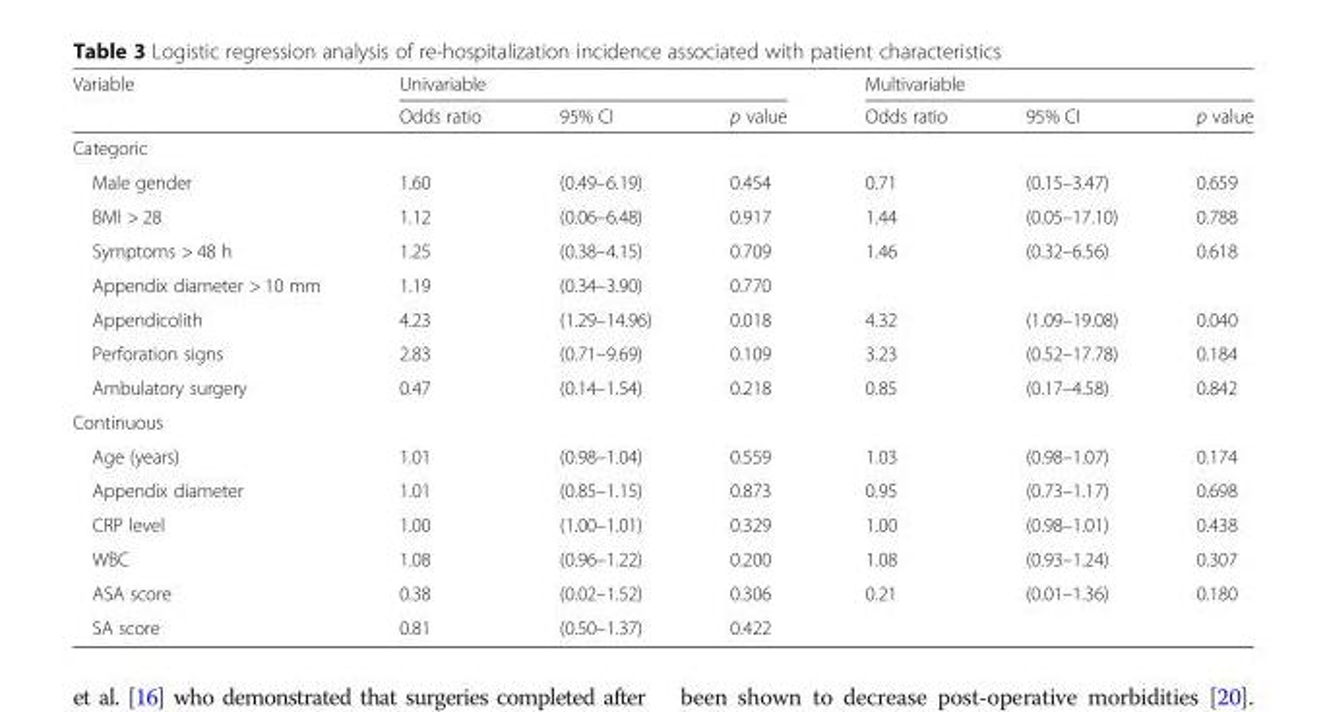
<table><thead><tr><td rowspan="2">Variable</td><td colspan="3">Univariable</td><td colspan="3">Multivariable</td></tr><tr><td>Odds ratio</td><td>95% CI</td><td>p value</td><td>Odds ratio</td><td>95% CI</td><td>p value</td></tr></thead><tbody><tr><td colspan="7">Categoric</td></tr><tr><td>Male gender</td><td>1.60</td><td>(0.49–6.19)</td><td>0.454</td><td>0.71</td><td>(0.15–3.47)</td><td>0.659</td></tr><tr><td>BMI &gt; 28</td><td>1.12</td><td>(0.06–6.48)</td><td>0.917</td><td>1.44</td><td>(0.05–17.10)</td><td>0.788</td></tr><tr><td>Symptoms &gt; 48 h</td><td>1.25</td><td>(0.38–4.15)</td><td>0.709</td><td>1.46</td><td>(0.32–6.56)</td><td>0.618</td></tr><tr><td>Appendix diameter &gt; 10 mm</td><td>1.19</td><td>(0.34–3.90)</td><td>0.770</td><td></td><td></td><td></td></tr><tr><td>Appendicolith</td><td>4.23</td><td>(1.29–14.96)</td><td>0.018</td><td>4.32</td><td>(1.09–19.08)</td><td>0.040</td></tr><tr><td>Perforation signs</td><td>2.83</td><td>(0.71–9.69)</td><td>0.109</td><td>3.23</td><td>(0.52–17.78)</td><td>0.184</td></tr><tr><td>Ambulatory surgery</td><td>0.47</td><td>(0.14–1.54)</td><td>0.218</td><td>0.85</td><td>(0.17–4.58)</td><td>0.842</td></tr><tr><td colspan="7">Continuous</td></tr><tr><td>Age (years)</td><td>1.01</td><td>(0.98–1.04)</td><td>0.559</td><td>1.03</td><td>(0.98–1.07)</td><td>0.174</td></tr><tr><td>Appendix diameter</td><td>1.01</td><td>(0.85–1.15)</td><td>0.873</td><td>0.95</td><td>(0.73–1.17)</td><td>0.698</td></tr><tr><td>CRP level</td><td>1.00</td><td>(1.00–1.01)</td><td>0.329</td><td>1.00</td><td>(0.98–1.01)</td><td>0.438</td></tr><tr><td>WBC</td><td>1.08</td><td>(0.96–1.22)</td><td>0.200</td><td>1.08</td><td>(0.93–1.24)</td><td>0.307</td></tr><tr><td>ASA score</td><td>0.38</td><td>(0.02–1.52)</td><td>0.306</td><td>0.21</td><td>(0.01–1.36)</td><td>0.180</td></tr><tr><td>SA score</td><td>0.81</td><td>(0.50–1.37)</td><td>0.422</td><td></td><td></td><td></td></tr></tbody></table>